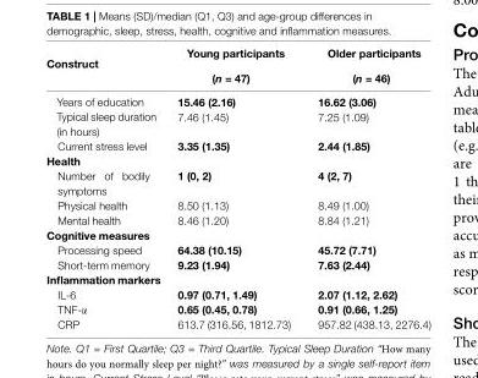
<table><thead><tr><td rowspan="2">Construct</td><td rowspan="2">Young participants (n = 47)</td><td rowspan="2">Older participants (n = 46)</td></tr><tr></tr></thead><tbody><tr><td>Years of education</td><td>15.46 (2.16)</td><td>16.62 (3.06)</td></tr><tr><td>Typical sleep duration (in hours)</td><td>7.46 (1.45)</td><td>7.25 (1.09)</td></tr><tr><td>Current stress level</td><td>3.35 (1.35)</td><td>2.44 (1.85)</td></tr><tr><td colspan="3">Health</td></tr><tr><td>Number of bodily symptoms</td><td>1 (0, 2)</td><td>4 (2, 7)</td></tr><tr><td>Physical health</td><td>8.50 (1.13)</td><td>8.49 (1.00)</td></tr><tr><td>Mental health</td><td>8.46 (1.20)</td><td>8.84 (1.21)</td></tr><tr><td colspan="3">Cognitive measures</td></tr><tr><td>Processing speed</td><td>64.38 (10.15)</td><td>45.72 (7.71)</td></tr><tr><td>Short-term memory</td><td>9.23 (1.94)</td><td>7.63 (2.44)</td></tr><tr><td colspan="3">Inflammation markers</td></tr><tr><td>IL-6</td><td>0.97 (0.71, 1.49)</td><td>2.07 (1.12, 2.62)</td></tr><tr><td>TNF-α</td><td>0.65 (0.45, 0.78)</td><td>0.91 (0.66, 1.25)</td></tr><tr><td>CRP</td><td>613.7 (316.56, 1812.73)</td><td>957.82 (438.13, 2276.4)</td></tr></tbody></table>